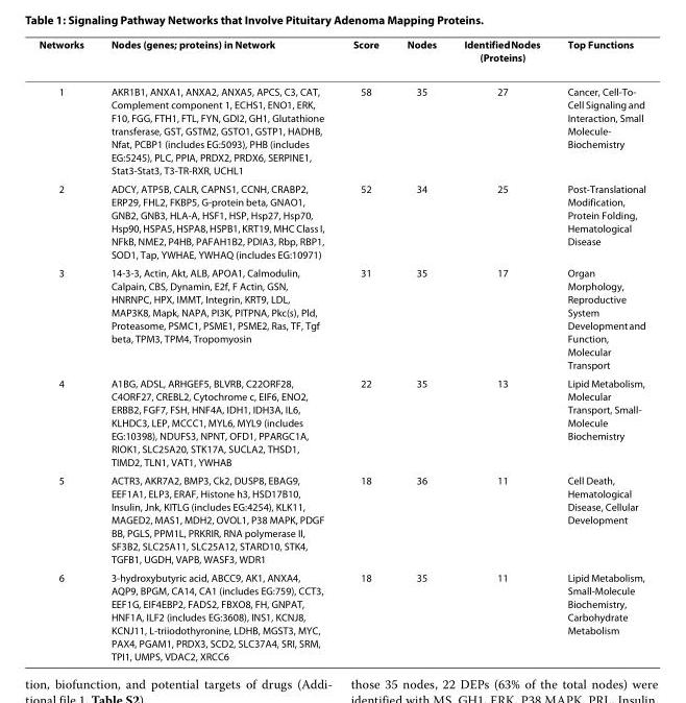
<table><thead><tr><td>Networks</td><td>Nodes (genes; proteins) in Network</td><td>Score</td><td>Nodes</td><td>Identified Nodes (Proteins)</td><td>Top Functions</td></tr></thead><tbody><tr><td>1</td><td>AKR1B1, ANXA1, ANXA2, ANXA5, APCS, C3, CAT, Complement component 1, ECHS1, ENO1, ERK, F10, FGG, FTH1, FTL, FYN, GDI2, GH1, Glutathione transferase, GST, GSTM2, GSTO1, GSTP1, HADHB, Nfat, PCBP1 (includes EG:5093), PHB (includes EG:5245), PLC, PPIA, PRDX2, PRDX6, SERPINE1, Stat3-Stat3, T3-TR-RXR, UCHL1</td><td>58</td><td>35</td><td>27</td><td>Cancer, Cell-To- Cell Signaling and Interaction, Small Molecule- Biochemistry</td></tr><tr><td>2</td><td>ADCY, ATP5B, CALR, CAPNS1, CCNH, CRABP2, ERP29, FHL2, FKBP5, G-protein beta, GNAO1, GNB2, GNB3, HLA-A, HSF1, HSP, Hsp27, Hsp70, Hsp90, HSPA5, HSPA8, HSPB1, KRT19, MHC Class I, NFkB, NME2, P4HB, PAFAH1B2, PDIA3, Rbp, RBP1, SOD1, Tap, YWHAE, YWHAQ (includes EG:10971)</td><td>52</td><td>34</td><td>25</td><td>Post-Translational Modification, Protein Folding, Hematological Disease</td></tr><tr><td>3</td><td>14-3-3, Actin, Akt, ALB, APOA1, Calmodulin, Calpain, CBS, Dynamin, E2f, F Actin, GSN, HNRNPC, HPX, IMMT, Integrin, KRT9, LDL, MAP3K8, Mapk, NAPA, PI3K, PITPNA, Pkc(s), Pld, Proteasome, PSMC1, PSME1, PSME2, Ras, TF, Tgf beta, TPM3, TPM4, Tropomyosin</td><td>31</td><td>35</td><td>17</td><td>Organ Morphology, Reproductive System Development and Function, Molecular Transport</td></tr><tr><td>4</td><td>A1BG, ADSL, ARHGEF5, BLVRB, C22ORF28, C4ORF27, CREBL2, Cytochrome c, EIF6, ENO2, ERBB2, FGF7, FSH, HNF4A, IDH1, IDH3A, IL6, KLHDC3, LEP, MCCC1, MYL6, MYL9 (includes EG:10398), NDUFS3, NPNT, OFD1, PPARGC1A, RIOK1, SLC25A20, STK17A, SUCLA2, THSD1, TIMD2, TLN1, VAT1, YWHAB</td><td>22</td><td>35</td><td>13</td><td>Lipid Metabolism, Molecular Transport, Small- Molecule Biochemistry</td></tr><tr><td>5</td><td>ACTR3, AKR7A2, BMP3, Ck2, DUSP8, EBAG9, EEF1A1, ELP3, ERAF, Histone h3, HSD17B10, Insulin, Jnk, KITLG (includes EG:4254), KLK11, MAGED2, MAS1, MDH2, OVOL1, P38 MAPK, PDGF BB, PGLS, PPM1L, PRKRIR, RNA polymerase II, SF3B2, SLC25A11, SLC25A12, STARD10, STK4, TGFB1, UGDH, VAPB, WASF3, WDR1</td><td>18</td><td>36</td><td>11</td><td>Cell Death, Hematological Disease, Cellular Development</td></tr><tr><td>6</td><td>3-hydroxybutyric acid, ABCC9, AK1, ANXA4, AQP9, BPGM, CA14, CA1 (includes EG:759), CCT3, EEF1G, EIF4EBP2, FADS2, FBXO8, FH, GNPAT, HNF1A, ILF2 (includes EG:3608), INS1, KCNJ8, KCNJ11, L-triiodothyronine, LDHB, MGST3, MYC, PAX4, PGAM1, PRDX3, SCD2, SLC37A4, SRI, SRM, TPI1, UMPS, VDAC2, XRCC6</td><td>18</td><td>35</td><td>11</td><td>Lipid Metabolism, Small-Molecule Biochemistry, Carbohydrate Metabolism</td></tr></tbody></table>